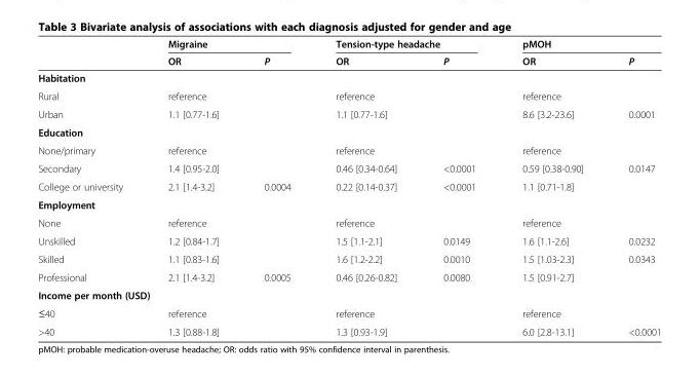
<table><thead><tr><td rowspan="2"></td><td colspan="2">Migraine</td><td colspan="2">Tension-type headache</td><td colspan="2">pMOH</td></tr><tr><td>OR</td><td>P</td><td>OR</td><td>P</td><td>OR</td><td>P</td></tr></thead><tbody><tr><td colspan="7">Habitation</td></tr><tr><td>Rural</td><td>reference</td><td></td><td>reference</td><td></td><td>reference</td><td></td></tr><tr><td>Urban</td><td>1.1 [0.77-1.6]</td><td></td><td>1.1 [0.77-1.6]</td><td></td><td>8.6 [3.2-23.6]</td><td>0.0001</td></tr><tr><td colspan="7">Education</td></tr><tr><td>None/primary</td><td>reference</td><td></td><td>reference</td><td></td><td>reference</td><td></td></tr><tr><td>Secondary</td><td>1.4 [0.95-2.0]</td><td></td><td>0.46 [0.34-0.64]</td><td>&lt;0.0001</td><td>0.59 [0.38-0.90]</td><td>0.0147</td></tr><tr><td>College or university</td><td>2.1 [1.4-3.2]</td><td>0.0004</td><td>0.22 [0.14-0.37]</td><td>&lt;0.0001</td><td>1.1 [0.71-1.8]</td><td></td></tr><tr><td colspan="7">Employment</td></tr><tr><td>None</td><td>reference</td><td></td><td>reference</td><td></td><td>reference</td><td></td></tr><tr><td>Unskilled</td><td>1.2 [0.84-1.7]</td><td></td><td>1.5 [1.1-2.1]</td><td>0.0149</td><td>1.6 [1.1-2.6]</td><td>0.0232</td></tr><tr><td>Skilled</td><td>1.1 [0.83-1.6]</td><td></td><td>1.6 [1.2-2.2]</td><td>0.0010</td><td>1.5 [1.03-2.3]</td><td>0.0343</td></tr><tr><td>Professional</td><td>2.1 [1.4-3.2]</td><td>0.0005</td><td>0.46 [0.26-0.82]</td><td>0.0080</td><td>1.5 [0.91-2.7]</td><td></td></tr><tr><td colspan="7">Income per month (USD)</td></tr><tr><td>≤40</td><td>reference</td><td></td><td>reference</td><td></td><td>reference</td><td></td></tr><tr><td>&gt;40</td><td>1.3 [0.88-1.8]</td><td></td><td>1.3 [0.93-1.9]</td><td></td><td>6.0 [2.8-13.1]</td><td>&lt;0.0001</td></tr></tbody></table>